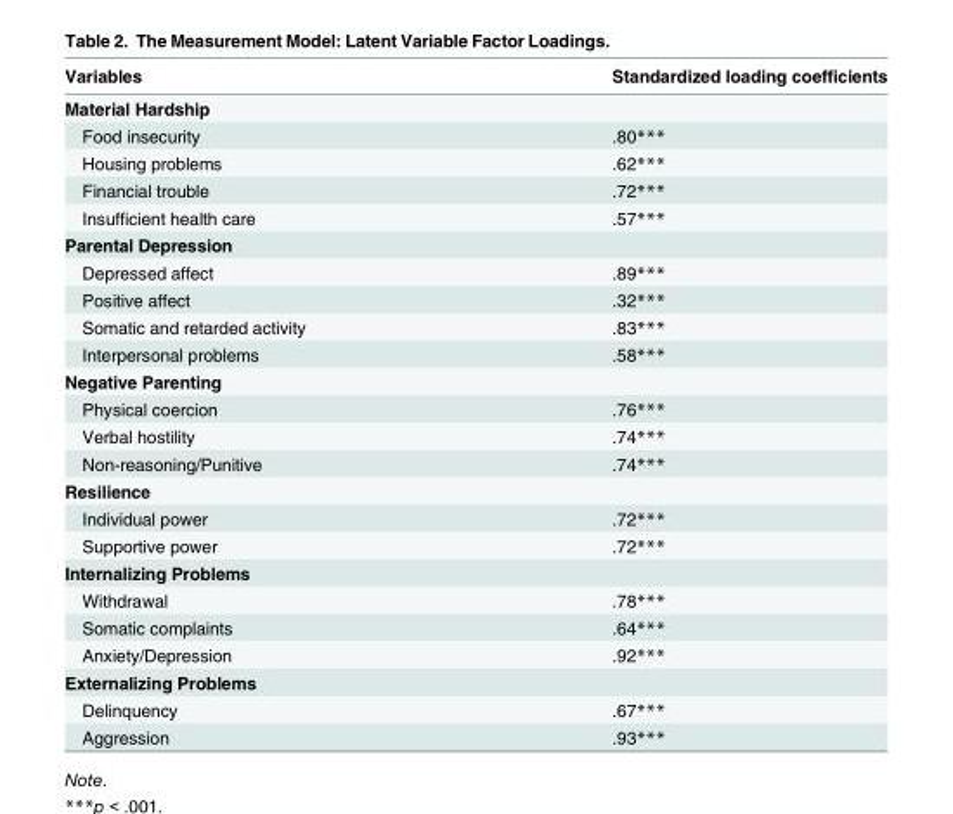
<table><thead><tr><td>Variables</td><td>Standardized loading coefficients</td></tr></thead><tbody><tr><td colspan="2">Material Hardship</td></tr><tr><td>Food insecurity</td><td>.80***</td></tr><tr><td>Housing problems</td><td>.62***</td></tr><tr><td>Financial trouble</td><td>.72***</td></tr><tr><td>Insufficient health care</td><td>.57***</td></tr><tr><td colspan="2">Parental Depression</td></tr><tr><td>Depressed affect</td><td>.89***</td></tr><tr><td>Positive affect</td><td>.32***</td></tr><tr><td>Somatic and retarded activity</td><td>.83***</td></tr><tr><td>Interpersonal problems</td><td>.58***</td></tr><tr><td colspan="2">Negative Parenting</td></tr><tr><td>Physical coercion</td><td>.76***</td></tr><tr><td>Verbal hostility</td><td>.74***</td></tr><tr><td>Non-reasoning/Punitive</td><td>.74***</td></tr><tr><td colspan="2">Resilience</td></tr><tr><td>Individual power</td><td>.72***</td></tr><tr><td>Supportive power</td><td>.72***</td></tr><tr><td colspan="2">Internalizing Problems</td></tr><tr><td>Withdrawal</td><td>.78***</td></tr><tr><td>Somatic complaints</td><td>.64***</td></tr><tr><td>Anxiety/Depression</td><td>.92***</td></tr><tr><td colspan="2">Externalizing Problems</td></tr><tr><td>Delinquency</td><td>.67***</td></tr><tr><td>Aggression</td><td>.93***</td></tr></tbody></table>